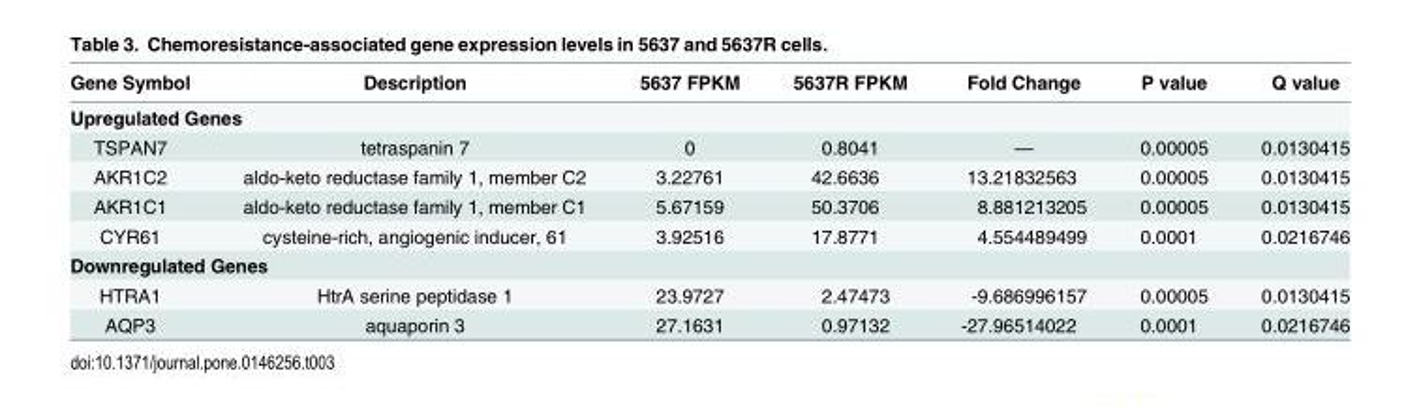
<table><thead><tr><td>Gene Symbol</td><td>Description</td><td>5637 FPKM</td><td>5637R FPKM</td><td>Fold Change</td><td>P value</td><td>Q value</td></tr></thead><tbody><tr><td colspan="7">Upregulated Genes</td></tr><tr><td>TSPAN7</td><td>tetraspanin 7</td><td>0</td><td>0.8041</td><td>—</td><td>0.00005</td><td>0.0130415</td></tr><tr><td>AKR1C2</td><td>aldo-keto reductase family 1, member C2</td><td>3.22761</td><td>42.6636</td><td>13.21832563</td><td>0.00005</td><td>0.0130415</td></tr><tr><td>AKR1C1</td><td>aldo-keto reductase family 1, member C1</td><td>5.67159</td><td>50.3706</td><td>8.881213205</td><td>0.00005</td><td>0.0130415</td></tr><tr><td>CYR61</td><td>cysteine-rich, angiogenic inducer, 61</td><td>3.92516</td><td>17.8771</td><td>4.554489499</td><td>0.0001</td><td>0.0216746</td></tr><tr><td colspan="7">Downregulated Genes</td></tr><tr><td>HTRA1</td><td>HtrA serine peptidase 1</td><td>23.9727</td><td>2.47473</td><td>-9.686996157</td><td>0.00005</td><td>0.0130415</td></tr><tr><td>AQP3</td><td>aquaporin 3</td><td>27.1631</td><td>0.97132</td><td>-27.96514022</td><td>0.0001</td><td>0.0216746</td></tr></tbody></table>